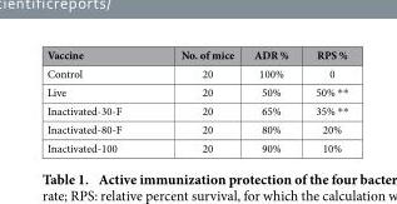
<table><thead><tr><td>Vaccine</td><td>No. of mice</td><td>ADR %</td><td>RPS %</td></tr></thead><tbody><tr><td>Control</td><td>20</td><td>100%</td><td>0</td></tr><tr><td>Live</td><td>20</td><td>50%</td><td>50% * *</td></tr><tr><td>Inactivated-30-F</td><td>20</td><td>65%</td><td>35% * *</td></tr><tr><td>Inactivated-80-F</td><td>20</td><td>80%</td><td>20%</td></tr><tr><td>Inactivated-100</td><td>20</td><td>90%</td><td>10%</td></tr></tbody></table>